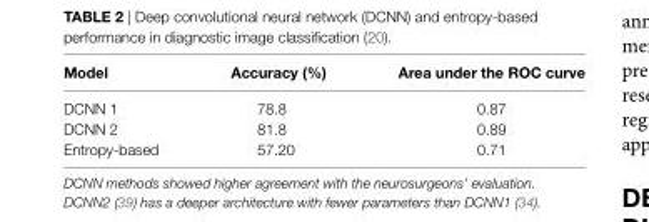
<table><thead><tr><td>Model</td><td>Accuracy (%)</td><td>Area under the ROC curve</td></tr></thead><tbody><tr><td>DCNN 1</td><td>78.8</td><td>0.87</td></tr><tr><td>DCNN 2</td><td>81.8</td><td>0.89</td></tr><tr><td>Entropybased</td><td>57.20</td><td>0.71</td></tr></tbody></table>